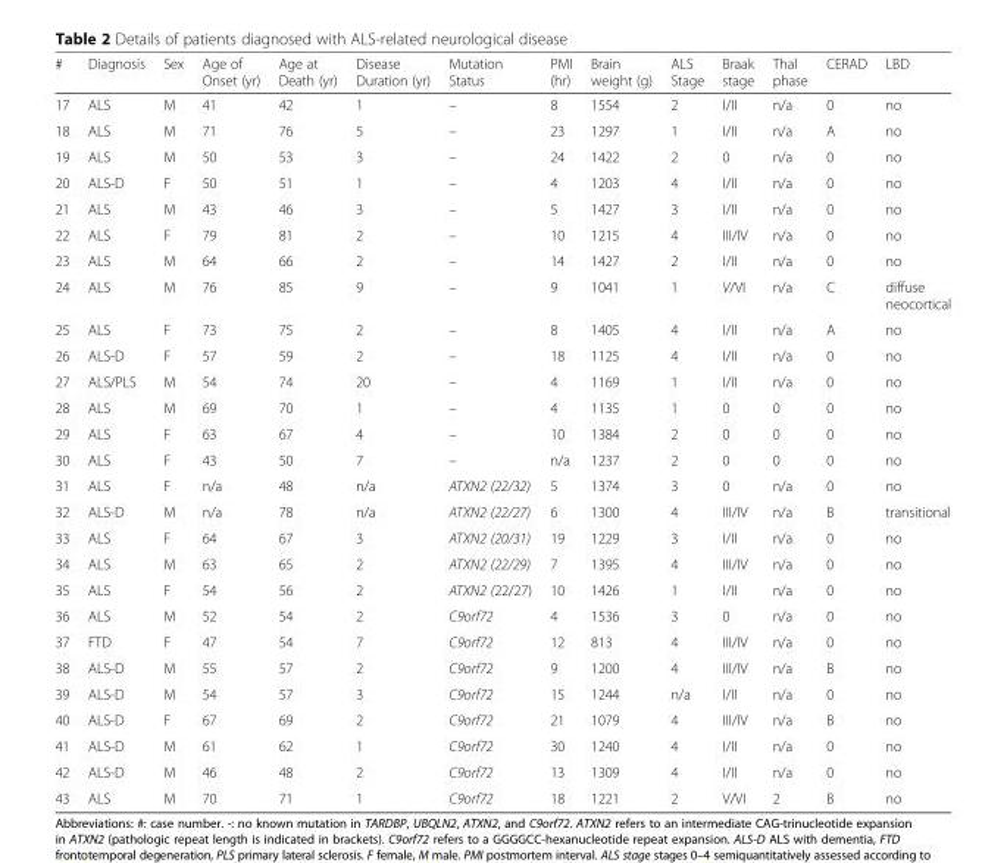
<table><thead><tr><td>#</td><td>Diagnosis</td><td>Sex</td><td>Age of Onset (yr)</td><td>Age at Death (yr)</td><td>Disease Duration (yr)</td><td>Mutation Status</td><td>PMI (hr)</td><td>Brain weight (g)</td><td>ALS Stage</td><td>Braak stage</td><td>Thal phase</td><td>CERAD</td><td>LBD</td></tr></thead><tbody><tr><td>17</td><td>ALS</td><td>M</td><td>41</td><td>42</td><td>1</td><td>–</td><td>8</td><td>1554</td><td>2</td><td>I/II</td><td>n/a</td><td>0</td><td>no</td></tr><tr><td>18</td><td>ALS</td><td>M</td><td>71</td><td>76</td><td>5</td><td>–</td><td>23</td><td>1297</td><td>1</td><td>I/II</td><td>n/a</td><td>A</td><td>no</td></tr><tr><td>19</td><td>ALS</td><td>M</td><td>50</td><td>53</td><td>3</td><td>–</td><td>24</td><td>1422</td><td>2</td><td>0</td><td>n/a</td><td>0</td><td>no</td></tr><tr><td>20</td><td>ALS-D</td><td>F</td><td>50</td><td>51</td><td>1</td><td>–</td><td>4</td><td>1203</td><td>4</td><td>I/II</td><td>n/a</td><td>0</td><td>no</td></tr><tr><td>21</td><td>ALS</td><td>M</td><td>43</td><td>46</td><td>3</td><td>–</td><td>5</td><td>1427</td><td>3</td><td>I/II</td><td>n/a</td><td>0</td><td>no</td></tr><tr><td>22</td><td>ALS</td><td>F</td><td>79</td><td>81</td><td>2</td><td>–</td><td>10</td><td>1215</td><td>4</td><td>III/IV</td><td>n/a</td><td>0</td><td>no</td></tr><tr><td>23</td><td>ALS</td><td>M</td><td>64</td><td>66</td><td>2</td><td>–</td><td>14</td><td>1427</td><td>2</td><td>I/II</td><td>n/a</td><td>0</td><td>no</td></tr><tr><td>24</td><td>ALS</td><td>M</td><td>76</td><td>85</td><td>9</td><td>–</td><td>9</td><td>1041</td><td>1</td><td>V/VI</td><td>n/a</td><td>C</td><td>diffuse neocortical</td></tr><tr><td>25</td><td>ALS</td><td>F</td><td>73</td><td>75</td><td>2</td><td>–</td><td>8</td><td>1405</td><td>4</td><td>I/II</td><td>n/a</td><td>A</td><td>no</td></tr><tr><td>26</td><td>ALS-D</td><td>F</td><td>57</td><td>59</td><td>2</td><td>–</td><td>18</td><td>1125</td><td>4</td><td>I/II</td><td>n/a</td><td>0</td><td>no</td></tr><tr><td>27</td><td>ALS/PLS</td><td>M</td><td>54</td><td>74</td><td>20</td><td>–</td><td>4</td><td>1169</td><td>1</td><td>I/II</td><td>n/a</td><td>0</td><td>no</td></tr><tr><td>28</td><td>ALS</td><td>M</td><td>69</td><td>70</td><td>1</td><td>–</td><td>4</td><td>1135</td><td>1</td><td>0</td><td>0</td><td>0</td><td>no</td></tr><tr><td>29</td><td>ALS</td><td>F</td><td>63</td><td>67</td><td>4</td><td>–</td><td>10</td><td>1384</td><td>2</td><td>0</td><td>0</td><td>0</td><td>no</td></tr><tr><td>30</td><td>ALS</td><td>F</td><td>43</td><td>50</td><td>7</td><td>–</td><td>n/a</td><td>1237</td><td>2</td><td>0</td><td>0</td><td>0</td><td>no</td></tr><tr><td>31</td><td>ALS</td><td>F</td><td>n/a</td><td>48</td><td>n/a</td><td>ATXN2 (22/32)</td><td>5</td><td>1374</td><td>3</td><td>0</td><td>n/a</td><td>0</td><td>no</td></tr><tr><td>32</td><td>ALS-D</td><td>M</td><td>n/a</td><td>78</td><td>n/a</td><td>ATXN2 (22/27)</td><td>6</td><td>1300</td><td>4</td><td>III/IV</td><td>n/a</td><td>B</td><td>transitional</td></tr><tr><td>33</td><td>ALS</td><td>F</td><td>64</td><td>67</td><td>3</td><td>ATXN2 (20/31)</td><td>19</td><td>1229</td><td>3</td><td>I/II</td><td>n/a</td><td>0</td><td>no</td></tr><tr><td>34</td><td>ALS</td><td>M</td><td>63</td><td>65</td><td>2</td><td>ATXN2 (22/29)</td><td>7</td><td>1395</td><td>4</td><td>III/IV</td><td>n/a</td><td>0</td><td>no</td></tr><tr><td>35</td><td>ALS</td><td>F</td><td>54</td><td>56</td><td>2</td><td>ATXN2 (22/27)</td><td>10</td><td>1426</td><td>1</td><td>I/II</td><td>n/a</td><td>0</td><td>no</td></tr><tr><td>36</td><td>ALS</td><td>M</td><td>52</td><td>54</td><td>2</td><td>C9orf72</td><td>4</td><td>1536</td><td>3</td><td>0</td><td>n/a</td><td>0</td><td>no</td></tr><tr><td>37</td><td>FTD</td><td>F</td><td>47</td><td>54</td><td>7</td><td>C9orf72</td><td>12</td><td>813</td><td>4</td><td>III/IV</td><td>n/a</td><td>0</td><td>no</td></tr><tr><td>38</td><td>ALS-D</td><td>M</td><td>55</td><td>57</td><td>2</td><td>C9orf72</td><td>9</td><td>1200</td><td>4</td><td>III/IV</td><td>n/a</td><td>B</td><td>no</td></tr><tr><td>39</td><td>ALS-D</td><td>M</td><td>54</td><td>57</td><td>3</td><td>C9orf72</td><td>15</td><td>1244</td><td>n/a</td><td>I/II</td><td>n/a</td><td>0</td><td>no</td></tr><tr><td>40</td><td>ALS-D</td><td>F</td><td>67</td><td>69</td><td>2</td><td>C9orf72</td><td>21</td><td>1079</td><td>4</td><td>III/IV</td><td>n/a</td><td>B</td><td>no</td></tr><tr><td>41</td><td>ALS-D</td><td>M</td><td>61</td><td>62</td><td>1</td><td>C9orf72</td><td>30</td><td>1240</td><td>4</td><td>I/II</td><td>n/a</td><td>0</td><td>no</td></tr><tr><td>42</td><td>ALS-D</td><td>M</td><td>46</td><td>48</td><td>2</td><td>C9orf72</td><td>13</td><td>1309</td><td>4</td><td>I/II</td><td>n/a</td><td>0</td><td>no</td></tr><tr><td>43</td><td>ALS</td><td>M</td><td>70</td><td>71</td><td>1</td><td>C9orf72</td><td>18</td><td>1221</td><td>2</td><td>V/VI</td><td>2</td><td>B</td><td>no</td></tr></tbody></table>